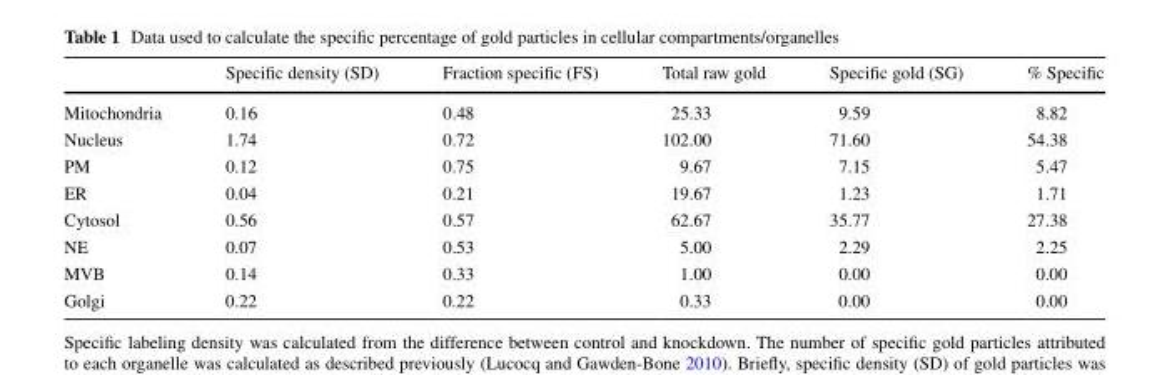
<table><thead><tr><td></td><td>Specific density (SD)</td><td>Fraction specific (FS)</td><td>Total raw gold</td><td>Specific gold (SG)</td><td>% Specific</td></tr></thead><tbody><tr><td>Mitochondria</td><td>0.16</td><td>0.48</td><td>25.33</td><td>9.59</td><td>8.82</td></tr><tr><td>Nucleus</td><td>1.74</td><td>0.72</td><td>102.00</td><td>71.60</td><td>54.38</td></tr><tr><td>PM</td><td>0.12</td><td>0.75</td><td>9.67</td><td>7.15</td><td>5.47</td></tr><tr><td>ER</td><td>0.04</td><td>0.21</td><td>19.67</td><td>1.23</td><td>1.71</td></tr><tr><td>Cytosol</td><td>0.56</td><td>0.57</td><td>62.67</td><td>35.77</td><td>27.38</td></tr><tr><td>NE</td><td>0.07</td><td>0.53</td><td>5.00</td><td>2.29</td><td>2.25</td></tr><tr><td>MVB</td><td>0.14</td><td>0.33</td><td>1.00</td><td>0.00</td><td>0.00</td></tr><tr><td>Golgi</td><td>0.22</td><td>0.22</td><td>0.33</td><td>0.00</td><td>0.00</td></tr></tbody></table>